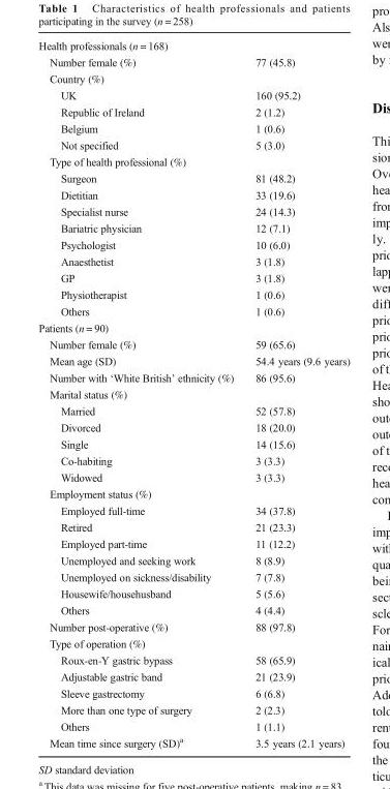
<table><tbody><tr><td colspan="2">Health professionals (n = 168)</td></tr><tr><td>Number female (%)</td><td>77 (45.8)</td></tr><tr><td colspan="2">Country (%)</td></tr><tr><td>UK</td><td>160 (95.2)</td></tr><tr><td>Republic of Ireland</td><td>2 (1.2)</td></tr><tr><td>Belgium</td><td>1 (0.6)</td></tr><tr><td>Not specified</td><td>5 (3.0)</td></tr><tr><td colspan="2">Type of health professional (%)</td></tr><tr><td>Surgeon</td><td>81 (48.2)</td></tr><tr><td>Dietitian</td><td>33 (19.6)</td></tr><tr><td>Specialist nurse</td><td>24 (14.3)</td></tr><tr><td>Bariatric physician</td><td>12 (7.1)</td></tr><tr><td>Psychologist</td><td>10 (6.0)</td></tr><tr><td>Anaesthetist</td><td>3 (1.8)</td></tr><tr><td>GP</td><td>3 (1.8)</td></tr><tr><td>Physiotherapist</td><td>1 (0.6)</td></tr><tr><td>Others</td><td>1 (0.6)</td></tr><tr><td colspan="2">Patients (n = 90)</td></tr><tr><td>Number female (%)</td><td>59 (65.6)</td></tr><tr><td>Mean age (SD)</td><td>54.4 years (9.6 years)</td></tr><tr><td>Number with ‘White British’ ethnicity (%)</td><td>86 (95.6)</td></tr><tr><td colspan="2">Marital status (%)</td></tr><tr><td>Married</td><td>52 (57.8)</td></tr><tr><td>Divorced</td><td>18 (20.0)</td></tr><tr><td>Single</td><td>14 (15.6)</td></tr><tr><td>Co-habiting</td><td>3 (3.3)</td></tr><tr><td>Widowed</td><td>3 (3.3)</td></tr><tr><td colspan="2">Employment status (%)</td></tr><tr><td>Employed full-time</td><td>34 (37.8)</td></tr><tr><td>Retired</td><td>21 (23.3)</td></tr><tr><td>Employed part-time</td><td>11 (12.2)</td></tr><tr><td>Unemployed and seeking work</td><td>8 (8.9)</td></tr><tr><td>Unemployed on sickness/disability</td><td>7 (7.8)</td></tr><tr><td>Housewife/househusband</td><td>5 (5.6)</td></tr><tr><td>Others</td><td>4 (4.4)</td></tr><tr><td>Number post-operative (%)</td><td>88 (97.8)</td></tr><tr><td colspan="2">Type of operation (%)</td></tr><tr><td>Roux-en-Y gastric bypass</td><td>58 (65.9)</td></tr><tr><td>Adjustable gastric band</td><td>21 (23.9)</td></tr><tr><td>Sleeve gastrectomy</td><td>6 (6.8)</td></tr><tr><td>More than one type of surgery</td><td>2 (2.3)</td></tr><tr><td>Others</td><td>1 (1.1)</td></tr><tr><td>Mean time since surgery (SD)<sup>a</sup></td><td>3.5 years (2.1 years)</td></tr></tbody></table>